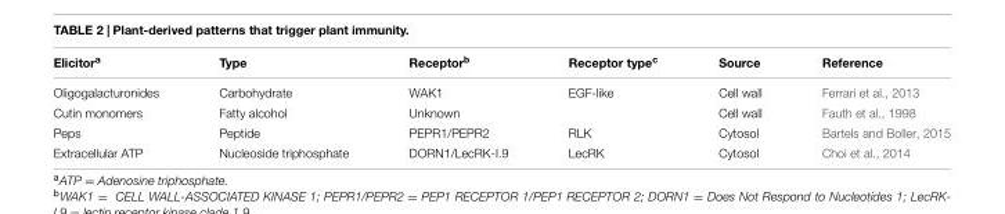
<table><thead><tr><td>Elicitor<sup>a</sup></td><td>Type</td><td>Receptor<sup>b</sup></td><td>Receptor type<sup>c</sup></td><td>Source</td><td>Reference</td></tr></thead><tbody><tr><td>Oligogalacturonides</td><td>Carbohydrate</td><td>WAK1</td><td>EGF-like</td><td>Cell wall</td><td>Ferrari et al., 2013</td></tr><tr><td>Cutin monomers</td><td>Fatty alcohol</td><td>Unknown</td><td></td><td>Cell wall</td><td>Fauth et al., 1998</td></tr><tr><td>Peps</td><td>Peptide</td><td>PEPR1/PEPR2</td><td>RLK</td><td>Cytosol</td><td>Bartels and Boller, 2015</td></tr><tr><td>Extracellular ATP</td><td>Nucleoside triphosphate</td><td>DORN1/LecRK-I.9</td><td>LecRK</td><td>Cytosol</td><td>Choi et al., 2014</td></tr></tbody></table>